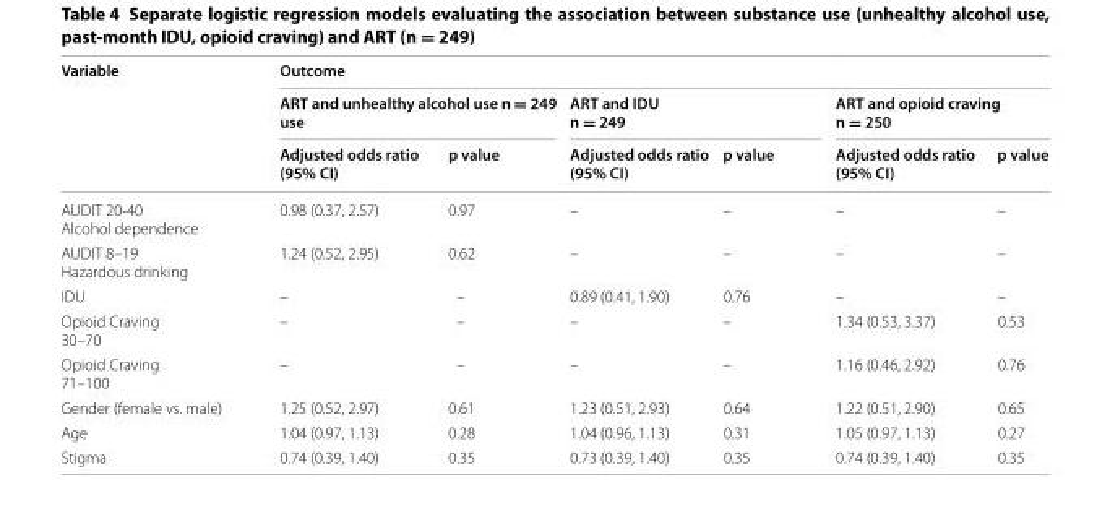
<table><thead><tr><td rowspan="3">Variable</td><td colspan="6">Outcome</td></tr><tr><td colspan="2">ART and unhealthy alcohol use n = 249 use</td><td colspan="2">ART and IDU n = 249</td><td colspan="2">ART and opioid craving n = 250</td></tr><tr><td>Adjusted odds ratio (95% CI)</td><td>p value</td><td>Adjusted odds ratio (95% CI)</td><td>p value</td><td>Adjusted odds ratio (95% CI)</td><td>p value</td></tr></thead><tbody><tr><td>AUDIT 20-40 Alcohol dependence</td><td>0.98 (0.37, 2.57)</td><td>0.97</td><td>–</td><td>–</td><td>–</td><td>–</td></tr><tr><td>AUDIT 8–19 Hazardous drinking</td><td>1.24 (0.52, 2.95)</td><td>0.62</td><td>–</td><td>–</td><td>–</td><td>–</td></tr><tr><td>IDU</td><td>–</td><td>–</td><td>0.89 (0.41, 1.90)</td><td>0.76</td><td>–</td><td>–</td></tr><tr><td>Opioid Craving 30–70</td><td>–</td><td>–</td><td>–</td><td>–</td><td>1.34 (0.53, 3.37)</td><td>0.53</td></tr><tr><td>Opioid Craving 71–100</td><td>–</td><td>–</td><td>–</td><td>–</td><td>1.16 (0.46, 2.92)</td><td>0.76</td></tr><tr><td>Gender (female vs. male)</td><td>1.25 (0.52, 2.97)</td><td>0.61</td><td>1.23 (0.51, 2.93)</td><td>0.64</td><td>1.22 (0.51, 2.90)</td><td>0.65</td></tr><tr><td>Age</td><td>1.04 (0.97, 1.13)</td><td>0.28</td><td>1.04 (0.96, 1.13)</td><td>0.31</td><td>1.05 (0.97, 1.13)</td><td>0.27</td></tr><tr><td>Stigma</td><td>0.74 (0.39, 1.40)</td><td>0.35</td><td>0.73 (0.39, 1.40)</td><td>0.35</td><td>0.74 (0.39, 1.40)</td><td>0.35</td></tr></tbody></table>